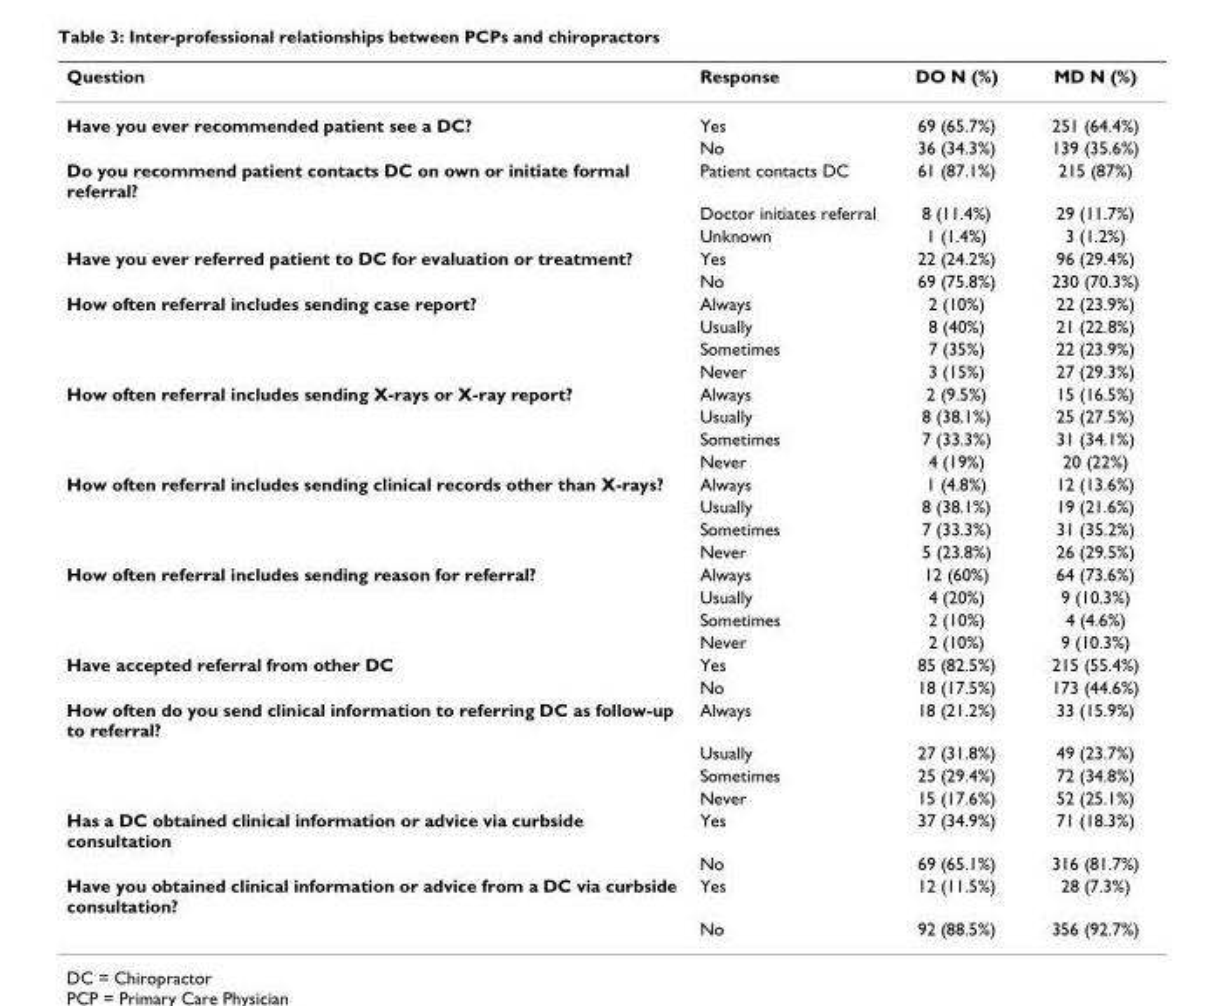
<table><thead><tr><td>Question</td><td>Response</td><td>DO N (%)</td><td>MD N (%)</td></tr></thead><tbody><tr><td rowspan="2">Have you ever recommended patient see a DC?</td><td>Yes</td><td>69 (65.7%)</td><td>251 (64.4%)</td></tr><tr><td>No</td><td>36 (34.3%)</td><td>139 (35.6%)</td></tr><tr><td rowspan="3">Do you recommend patient contacts DC on own or initiate formal referral?</td><td>Patient contacts DC</td><td>61 (87.1%)</td><td>215 (87%)</td></tr><tr><td>Doctor initiates referral</td><td>8 (11.4%)</td><td>29 (11.7%)</td></tr><tr><td>Unknown</td><td>1 (1.4%)</td><td>3 (1.2%)</td></tr><tr><td rowspan="2">Have you ever referred patient to DC for evaluation or treatment?</td><td>Yes</td><td>22 (24.2%)</td><td>96 (29.4%)</td></tr><tr><td>No</td><td>69 (75.8%)</td><td>230 (70.3%)</td></tr><tr><td rowspan="4">How often referral includes sending case report?</td><td>Always</td><td>2 (10%)</td><td>22 (23.9%)</td></tr><tr><td>Usually</td><td>8 (40%)</td><td>21 (22.8%)</td></tr><tr><td>Sometimes</td><td>7 (35%)</td><td>22 (23.9%)</td></tr><tr><td>Never</td><td>3 (15%)</td><td>27 (29.3%)</td></tr><tr><td rowspan="4">How often referral includes sending X-rays or X-ray report?</td><td>Always</td><td>2 (9.5%)</td><td>15 (16.5%)</td></tr><tr><td>Usually</td><td>8 (38.1%)</td><td>25 (27.5%)</td></tr><tr><td>Sometimes</td><td>7 (33.3%)</td><td>31 (34.1%)</td></tr><tr><td>Never</td><td>4 (19%)</td><td>20 (22%)</td></tr><tr><td rowspan="4">How often referral includes sending clinical records other than X-rays?</td><td>Always</td><td>1 (4.8%)</td><td>12 (13.6%)</td></tr><tr><td>Usually</td><td>8 (38.1%)</td><td>19 (21.6%)</td></tr><tr><td>Sometimes</td><td>7 (33.3%)</td><td>31 (35.2%)</td></tr><tr><td>Never</td><td>5 (23.8%)</td><td>26 (29.5%)</td></tr><tr><td rowspan="4">How often referral includes sending reason for referral?</td><td>Always</td><td>12 (60%)</td><td>64 (73.6%)</td></tr><tr><td>Usually</td><td>4 (20%)</td><td>9 (10.3%)</td></tr><tr><td>Sometimes</td><td>2 (10%)</td><td>4 (4.6%)</td></tr><tr><td>Never</td><td>2 (10%)</td><td>9 (10.3%)</td></tr><tr><td rowspan="2">Have accepted referral from other DC</td><td>Yes</td><td>85 (82.5%)</td><td>215 (55.4%)</td></tr><tr><td>No</td><td>18 (17.5%)</td><td>173 (44.6%)</td></tr><tr><td rowspan="4">How often do you send clinical information to referring DC as follow-up to referral?</td><td>Always</td><td>18 (21.2%)</td><td>33 (15.9%)</td></tr><tr><td>Usually</td><td>27 (31.8%)</td><td>49 (23.7%)</td></tr><tr><td>Sometimes</td><td>25 (29.4%)</td><td>72 (34.8%)</td></tr><tr><td>Never</td><td>15 (17.6%)</td><td>52 (25.1%)</td></tr><tr><td rowspan="2">Has a DC obtained clinical information or advice via curbside consultation</td><td>Yes</td><td>37 (34.9%)</td><td>71 (18.3%)</td></tr><tr><td>No</td><td>69 (65.1%)</td><td>316 (81.7%)</td></tr><tr><td rowspan="2">Have you obtained clinical information or advice from a DC via curbside consultation?</td><td>Yes</td><td>12 (11.5%)</td><td>28 (7.3%)</td></tr><tr><td>No</td><td>92 (88.5%)</td><td>356 (92.7%)</td></tr></tbody></table>